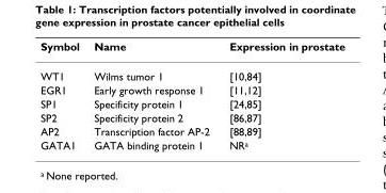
<table><thead><tr><td>Symbol</td><td>Name</td><td>Expression in prostate</td></tr></thead><tbody><tr><td>WT1</td><td>Wilms tumor 1</td><td>[10,84]</td></tr><tr><td>EGR1</td><td>Early growth response 1</td><td>[11,12]</td></tr><tr><td>SP1</td><td>Specificity protein 1</td><td>[24,85]</td></tr><tr><td>SP2</td><td>Specificity protein 2</td><td>[86,87]</td></tr><tr><td>AP2</td><td>Transcription factor AP-2</td><td>[88,89]</td></tr><tr><td>GATA1</td><td>GATA binding protein 1</td><td>NR<sup>a</sup></td></tr></tbody></table>